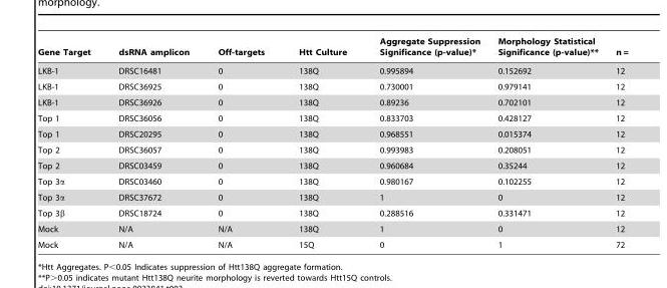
<table><thead><tr><td>Gene Target</td><td>dsRNA amplicon</td><td>Off-targets</td><td>Htt Culture</td><td>Aggregate Suppression Significance (p-value)*</td><td>Morphology Statistical Significance (p-value)**</td><td>n =</td></tr></thead><tbody><tr><td>LKB-1</td><td>DRSC16481</td><td>0</td><td>138Q</td><td>0.995894</td><td>0.152692</td><td>12</td></tr><tr><td>LKB-1</td><td>DRSC36925</td><td>0</td><td>138Q</td><td>0.730001</td><td>0.979141</td><td>12</td></tr><tr><td>LKB-1</td><td>DRSC36926</td><td>0</td><td>138Q</td><td>0.89236</td><td>0.702101</td><td>12</td></tr><tr><td>Top 1</td><td>DRSC36056</td><td>0</td><td>138Q</td><td>0.833703</td><td>0.428127</td><td>12</td></tr><tr><td>Top 1</td><td>DRSC20295</td><td>0</td><td>138Q</td><td>0.968551</td><td>0.015374</td><td>12</td></tr><tr><td>Top 2</td><td>DRSC36057</td><td>0</td><td>138Q</td><td>0.993983</td><td>0.208051</td><td>12</td></tr><tr><td>Top 2</td><td>DRSC03459</td><td>0</td><td>138Q</td><td>0.960684</td><td>0.35244</td><td>12</td></tr><tr><td>Top 3α</td><td>DRSC03460</td><td>0</td><td>138Q</td><td>0.980167</td><td>0.102255</td><td>12</td></tr><tr><td>Top 3α</td><td>DRSC37672</td><td>0</td><td>138Q</td><td>1</td><td>0</td><td>12</td></tr><tr><td>Top 3β</td><td>DRSC18724</td><td>0</td><td>138Q</td><td>0.288516</td><td>0.331471</td><td>12</td></tr><tr><td>Mock</td><td>N/A</td><td>N/A</td><td>138Q</td><td>1</td><td>0</td><td>12</td></tr><tr><td>Mock</td><td>N/A</td><td>N/A</td><td>15Q</td><td>0</td><td>1</td><td>72</td></tr></tbody></table>